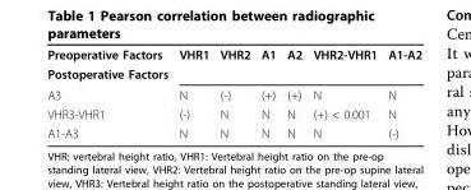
<table><tbody><tr><td>Preoperative Factors</td><td>VHR1</td><td>VHR2</td><td>A1</td><td>A2</td><td>VHR2-VHR1</td><td>A1-A2</td></tr><tr><td colspan="7">Postoperative Factors</td></tr><tr><td>A3</td><td>N</td><td>(-)</td><td>(+)</td><td>(+)</td><td>N</td><td>N</td></tr><tr><td>VHR3-VHR1</td><td>(-)</td><td>N</td><td>N</td><td>N</td><td>(+) &lt; 0.001</td><td>N</td></tr><tr><td>A1-A3</td><td>N</td><td>N</td><td>N</td><td>N</td><td>N</td><td>(-)</td></tr></tbody></table>